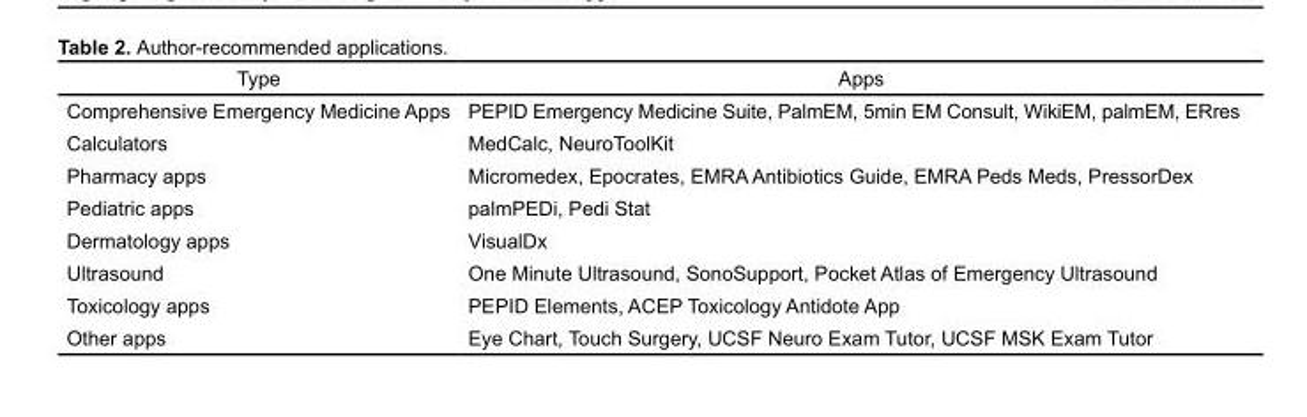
<table><thead><tr><td>Type</td><td>Apps</td></tr></thead><tbody><tr><td>Comprehensive Emergency Medicine Apps</td><td>PEPID Emergency Medicine Suite, PalmEM, 5min EM Consult, WikiEM, palmEM, ERres</td></tr><tr><td>Calculators</td><td>MedCalc, NeuroToolKit</td></tr><tr><td>Pharmacy apps</td><td>Micromedex, Epocrates, EMRA Antibiotics Guide, EMRA Peds Meds, PressorDex</td></tr><tr><td>Pediatric apps</td><td>palmPEDi, Pedi Stat</td></tr><tr><td>Dermatology apps</td><td>VisualDx</td></tr><tr><td>Ultrasound</td><td>One Minute Ultrasound, SonoSupport, Pocket Atlas of Emergency Ultrasound</td></tr><tr><td>Toxicology apps</td><td>PEPID Elements, ACEP Toxicology Antidote App</td></tr><tr><td>Other apps</td><td>Eye Chart, Touch Surgery, UCSF Neuro Exam Tutor, UCSF MSK Exam Tutor</td></tr></tbody></table>